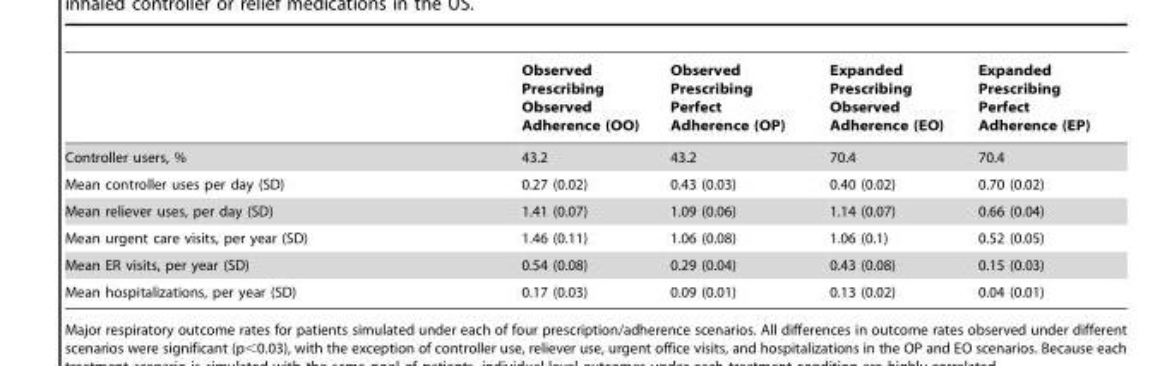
<table><thead><tr><td></td><td>Observed Prescribing Observed Adherence (OO)</td><td>Observed Prescribing Perfect Adherence (OP)</td><td>Expanded Prescribing Observed Adherence (EO)</td><td>Expanded Prescribing Perfect Adherence (EP)</td></tr></thead><tbody><tr><td>Controller users, %</td><td>43.2</td><td>43.2</td><td>70.4</td><td>70.4</td></tr><tr><td>Mean controller uses per day (SD)</td><td>0.27 (0.02)</td><td>0.43 (0.03)</td><td>0.40 (0.02)</td><td>0.70 (0.02)</td></tr><tr><td>Mean reliever uses, per day (SD)</td><td>1.41 (0.07)</td><td>1.09 (0.06)</td><td>1.14 (0.07)</td><td>0.66 (0.04)</td></tr><tr><td>Mean urgent care visits, per year (SD)</td><td>1.46 (0.11)</td><td>1.06 (0.08)</td><td>1.06 (0.1)</td><td>0.52 (0.05)</td></tr><tr><td>Mean ER visits, per year (SD)</td><td>0.54 (0.08)</td><td>0.29 (0.04)</td><td>0.43 (0.08)</td><td>0.15 (0.03)</td></tr><tr><td>Mean hospitalizations, per year (SD)</td><td>0.17 (0.03)</td><td>0.09 (0.01)</td><td>0.13 (0.02)</td><td>0.04 (0.01)</td></tr></tbody></table>